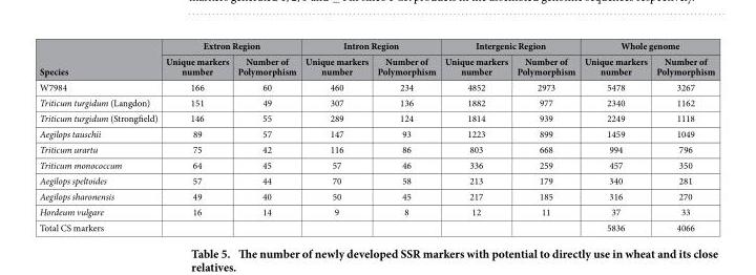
<table><thead><tr><td rowspan="2">Species</td><td colspan="2">Extron Region</td><td colspan="2">Intron Region</td><td colspan="2">Intergenic Region</td><td colspan="2">Whole genome</td></tr><tr><td>Unique markers number</td><td>Number of Polymorphism</td><td>Unique markers number</td><td>Number of Polymorphism</td><td>Unique markers number</td><td>Number of Polymorphism</td><td>Unique markers number</td><td>Number of Polymorphism</td></tr></thead><tbody><tr><td>W7984</td><td>166</td><td>60</td><td>460</td><td>234</td><td>4852</td><td>2973</td><td>5478</td><td>3267</td></tr><tr><td>Triticum turgidum (Langdon)</td><td>151</td><td>49</td><td>307</td><td>136</td><td>1882</td><td>977</td><td>2340</td><td>1162</td></tr><tr><td>Triticum turgidum (Strongfield)</td><td>146</td><td>55</td><td>289</td><td>124</td><td>1814</td><td>939</td><td>2249</td><td>1118</td></tr><tr><td>Aegilops tauschii</td><td>89</td><td>57</td><td>147</td><td>93</td><td>1223</td><td>899</td><td>1459</td><td>1049</td></tr><tr><td>Triticum urartu</td><td>75</td><td>42</td><td>116</td><td>86</td><td>803</td><td>668</td><td>994</td><td>796</td></tr><tr><td>Triticum monococcum</td><td>64</td><td>45</td><td>57</td><td>46</td><td>336</td><td>259</td><td>457</td><td>350</td></tr><tr><td>Aegilops speltoides</td><td>57</td><td>44</td><td>70</td><td>58</td><td>213</td><td>179</td><td>340</td><td>281</td></tr><tr><td>Aegilops sharonensis</td><td>49</td><td>40</td><td>50</td><td>45</td><td>217</td><td>185</td><td>316</td><td>270</td></tr><tr><td>Hordeum vulgare</td><td>16</td><td>14</td><td>9</td><td>8</td><td>12</td><td>11</td><td>37</td><td>33</td></tr><tr><td>Total CS markers</td><td></td><td></td><td></td><td></td><td></td><td></td><td>5836</td><td>4066</td></tr></tbody></table>